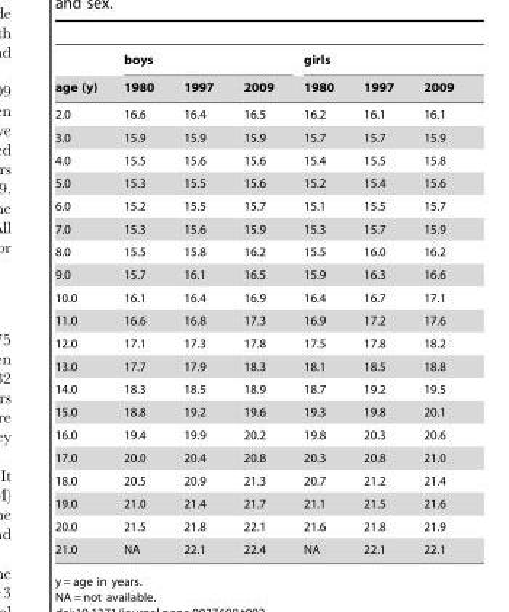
<table><thead><tr><td rowspan="2">age (y)</td><td colspan="3">boys</td><td colspan="3">girls</td></tr><tr><td>1980</td><td>1997</td><td>2009</td><td>1980</td><td>1997</td><td>2009</td></tr></thead><tbody><tr><td>2.0</td><td>16.6</td><td>16.4</td><td>16.5</td><td>16.2</td><td>16.1</td><td>16.1</td></tr><tr><td>3.0</td><td>15.9</td><td>15.9</td><td>15.9</td><td>15.7</td><td>15.7</td><td>15.9</td></tr><tr><td>4.0</td><td>15.5</td><td>15.6</td><td>15.6</td><td>15.4</td><td>15.5</td><td>15.8</td></tr><tr><td>5.0</td><td>15.3</td><td>15.5</td><td>15.6</td><td>15.2</td><td>15.4</td><td>15.6</td></tr><tr><td>6.0</td><td>15.2</td><td>15.5</td><td>15.7</td><td>15.1</td><td>15.5</td><td>15.7</td></tr><tr><td>7.0</td><td>15.3</td><td>15.6</td><td>15.9</td><td>15.3</td><td>15.7</td><td>15.9</td></tr><tr><td>8.0</td><td>15.5</td><td>15.8</td><td>16.2</td><td>15.5</td><td>16.0</td><td>16.2</td></tr><tr><td>9.0</td><td>15.7</td><td>16.1</td><td>16.5</td><td>15.9</td><td>16.3</td><td>16.6</td></tr><tr><td>10.0</td><td>16.1</td><td>16.4</td><td>16.9</td><td>16.4</td><td>16.7</td><td>17.1</td></tr><tr><td>11.0</td><td>16.6</td><td>16.8</td><td>17.3</td><td>16.9</td><td>17.2</td><td>17.6</td></tr><tr><td>12.0</td><td>17.1</td><td>17.3</td><td>17.8</td><td>17.5</td><td>17.8</td><td>18.2</td></tr><tr><td>13.0</td><td>17.7</td><td>17.9</td><td>18.3</td><td>18.1</td><td>18.5</td><td>18.8</td></tr><tr><td>14.0</td><td>18.3</td><td>18.5</td><td>18.9</td><td>18.7</td><td>19.2</td><td>19.5</td></tr><tr><td>15.0</td><td>18.8</td><td>19.2</td><td>19.6</td><td>19.3</td><td>19.8</td><td>20.1</td></tr><tr><td>16.0</td><td>19.4</td><td>19.9</td><td>20.2</td><td>19.8</td><td>20.3</td><td>20.6</td></tr><tr><td>17.0</td><td>20.0</td><td>20.4</td><td>20.8</td><td>20.3</td><td>20.8</td><td>21.0</td></tr><tr><td>18.0</td><td>20.5</td><td>20.9</td><td>21.3</td><td>20.7</td><td>21.2</td><td>21.4</td></tr><tr><td>19.0</td><td>21.0</td><td>21.4</td><td>21.7</td><td>21.1</td><td>21.5</td><td>21.6</td></tr><tr><td>20.0</td><td>21.5</td><td>21.8</td><td>22.1</td><td>21.6</td><td>21.8</td><td>21.9</td></tr><tr><td>21.0</td><td>NA</td><td>22.1</td><td>22.4</td><td>NA</td><td>22.1</td><td>22.1</td></tr></tbody></table>